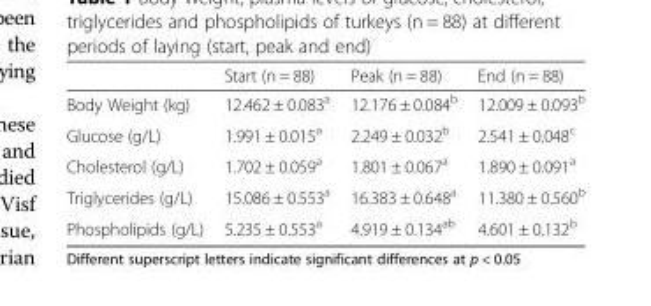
<table><thead><tr><td></td><td>Start (n = 88)</td><td>Peak (n = 88)</td><td>End (n = 88)</td></tr></thead><tbody><tr><td>Body Weight (kg)</td><td>12.462 ± 0.083<sup>a</sup></td><td>12.176 ± 0.084<sup>b</sup></td><td>12.009 ± 0.093<sup>b</sup></td></tr><tr><td>Glucose (g/L)</td><td>1.991 ± 0.015<sup>a</sup></td><td>2.249 ± 0.032<sup>b</sup></td><td>2.541 ± 0.048<sup>c</sup></td></tr><tr><td>Cholesterol (g/L)</td><td>1.702 ± 0.059<sup>a</sup></td><td>1.801 ± 0.067<sup>a</sup></td><td>1.890 ± 0.091<sup>a</sup></td></tr><tr><td>Triglycerides (g/L)</td><td>15.086 ± 0.553<sup>a</sup></td><td>16.383 ± 0.648<sup>a</sup></td><td>11.380 ± 0.560<sup>b</sup></td></tr><tr><td>Phospholipids (g/L)</td><td>5.235 ± 0.553<sup>a</sup></td><td>4.919 ± 0.134<sup>ab</sup></td><td>4.601 ± 0.132<sup>b</sup></td></tr></tbody></table>